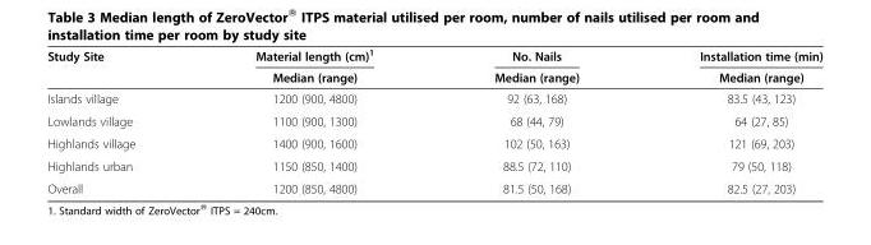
<table><thead><tr><td rowspan="2">Study Site</td><td rowspan="2">Material length (cm)<sup>1</sup> Median (range)</td><td rowspan="2">No. Nails Median (range)</td><td rowspan="2">Installation time (min) Median (range)</td></tr><tr></tr></thead><tbody><tr><td>Islands village</td><td>1200 (900, 4800)</td><td>92 (63, 168)</td><td>83.5 (43, 123)</td></tr><tr><td>Lowlands village</td><td>1100 (900, 1300)</td><td>68 (44, 79)</td><td>64 (27, 85)</td></tr><tr><td>Highlands village</td><td>1400 (900, 1600)</td><td>102 (50, 163)</td><td>121 (69, 203)</td></tr><tr><td>Highlands urban</td><td>1150 (850, 1400)</td><td>88.5 (72, 110)</td><td>79 (50, 118)</td></tr><tr><td>Overall</td><td>1200 (850, 4800)</td><td>81.5 (50, 168)</td><td>82.5 (27, 203)</td></tr></tbody></table>